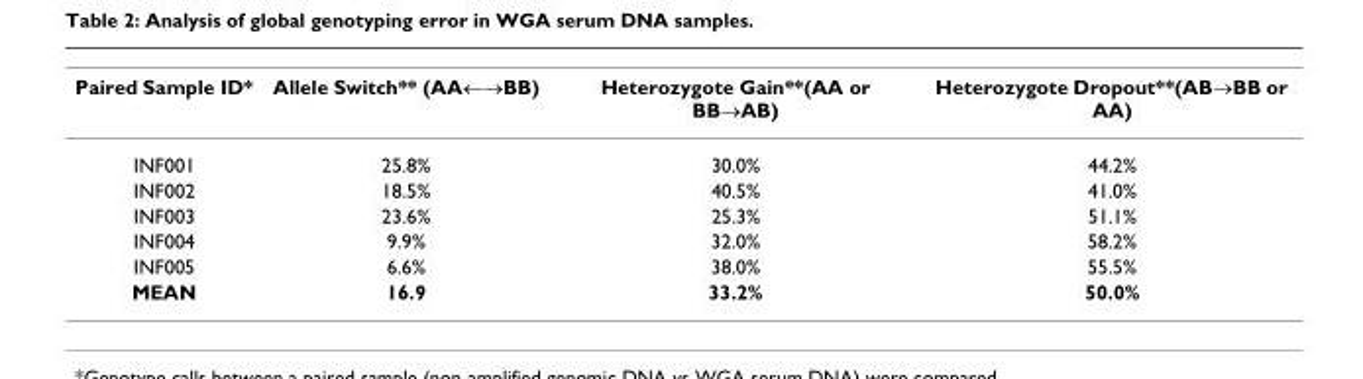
<table><tbody><tr><td>Paired Sample ID*</td><td>Allele Switch** (AA←→BB)</td><td>Heterozygote Gain**(AA or BB→AB)</td><td>Heterozygote Dropout**(AB→BB or AA)</td></tr><tr><td>INF001</td><td>25.8%</td><td>30.0%</td><td>44.2%</td></tr><tr><td>INF002</td><td>18.5%</td><td>40.5%</td><td>41.0%</td></tr><tr><td>INF003</td><td>23.6%</td><td>25.3%</td><td>51.1%</td></tr><tr><td>INF004</td><td>9.9%</td><td>32.0%</td><td>58.2%</td></tr><tr><td>INF005</td><td>6.6%</td><td>38.0%</td><td>55.5%</td></tr><tr><td>MEAN</td><td>16.9</td><td>33.2%</td><td>50.0%</td></tr></tbody></table>